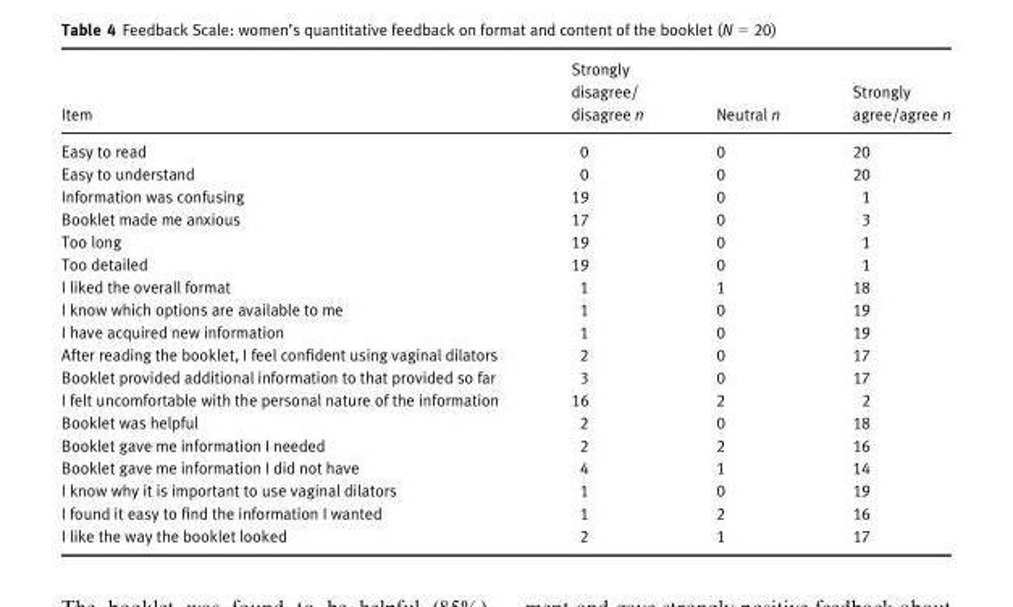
<table><thead><tr><td>Item</td><td>Strongly disagree/ disagree n</td><td>Neutral n</td><td>Strongly agree/agree n</td></tr></thead><tbody><tr><td>Easy to read</td><td>0</td><td>0</td><td>20</td></tr><tr><td>Easy to understand</td><td>0</td><td>0</td><td>20</td></tr><tr><td>Information was confusing</td><td>19</td><td>0</td><td>1</td></tr><tr><td>Booklet made me anxious</td><td>17</td><td>0</td><td>3</td></tr><tr><td>Too long</td><td>19</td><td>0</td><td>1</td></tr><tr><td>Too detailed</td><td>19</td><td>0</td><td>1</td></tr><tr><td>I liked the overall format</td><td>1</td><td>1</td><td>18</td></tr><tr><td>I know which options are available to me</td><td>1</td><td>0</td><td>19</td></tr><tr><td>I have acquired new information</td><td>1</td><td>0</td><td>19</td></tr><tr><td>After reading the booklet, I feel confident using vaginal dilators</td><td>2</td><td>0</td><td>17</td></tr><tr><td>Booklet provided additional information to that provided so far</td><td>3</td><td>0</td><td>17</td></tr><tr><td>I felt uncomfortable with the personal nature of the information</td><td>16</td><td>2</td><td>2</td></tr><tr><td>Booklet was helpful</td><td>2</td><td>0</td><td>18</td></tr><tr><td>Booklet gave me information I needed</td><td>2</td><td>2</td><td>16</td></tr><tr><td>Booklet gave me information I did not have</td><td>4</td><td>1</td><td>14</td></tr><tr><td>I know why it is important to use vaginal dilators</td><td>1</td><td>0</td><td>19</td></tr><tr><td>I found it easy to find the information I wanted</td><td>1</td><td>2</td><td>16</td></tr><tr><td>I like the way the booklet looked</td><td>2</td><td>1</td><td>17</td></tr></tbody></table>